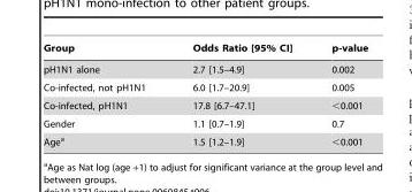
<table><thead><tr><td>Group</td><td>Odds Ratio [95% CI]</td><td>p-value</td></tr></thead><tbody><tr><td>pH1N1 alone</td><td>2.7 [1.5–4.9]</td><td>0.002</td></tr><tr><td>Co-infected, not pH1N1</td><td>6.0 [1.7–20.9]</td><td>0.005</td></tr><tr><td>Co-infected, pH1N1</td><td>17.8 [6.7–47.1]</td><td>&lt;0.001</td></tr><tr><td>Gender</td><td>1.1 [0.7–1.9]</td><td>0.7</td></tr><tr><td>Age<sup>a</sup></td><td>1.5 [1.2–1.9]</td><td>&lt;0.001</td></tr></tbody></table>